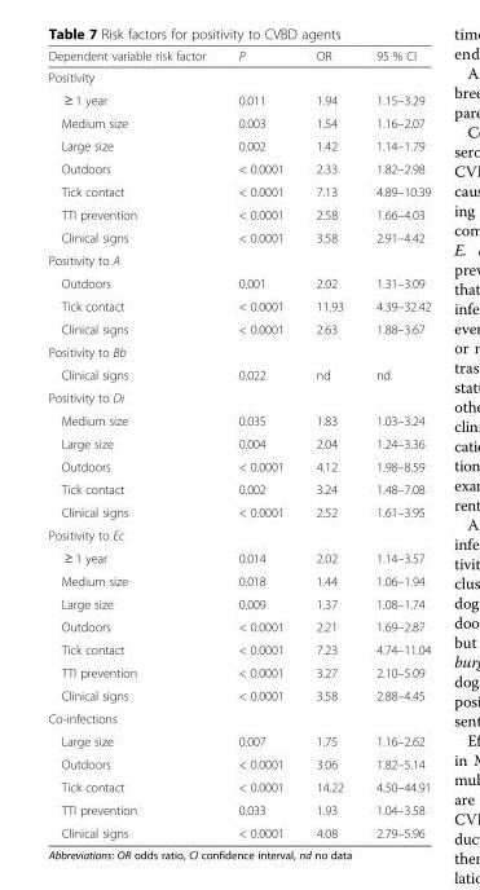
<table><thead><tr><td>Dependent variable risk factor</td><td>P</td><td>OR</td><td>95 % CI</td></tr></thead><tbody><tr><td colspan="4">Positivity</td></tr><tr><td>≥ 1 year</td><td>0.011</td><td>1.94</td><td>1.15–3.29</td></tr><tr><td>Medium size</td><td>0.003</td><td>1.54</td><td>1.16–2.07</td></tr><tr><td>Large size</td><td>0.002</td><td>1.42</td><td>1.14–1.79</td></tr><tr><td>Outdoors</td><td>&lt; 0.0001</td><td>2.33</td><td>1.82–2.98</td></tr><tr><td>Tick contact</td><td>&lt; 0.0001</td><td>7.13</td><td>4.89–10.39</td></tr><tr><td>TTI prevention</td><td>&lt; 0.0001</td><td>2.58</td><td>1.66–4.03</td></tr><tr><td>Clinical signs</td><td>&lt; 0.0001</td><td>3.58</td><td>2.91–4.42</td></tr><tr><td colspan="4">Positivity to A</td></tr><tr><td>Outdoors</td><td>0.001</td><td>2.02</td><td>1.31–3.09</td></tr><tr><td>Tick contact</td><td>&lt; 0.0001</td><td>11.93</td><td>4.39–32.42</td></tr><tr><td>Clinical signs</td><td>&lt; 0.0001</td><td>2.63</td><td>1.88–3.67</td></tr><tr><td colspan="4">Positivity to Bb</td></tr><tr><td>Clinical signs</td><td>0.022</td><td>nd</td><td>nd</td></tr><tr><td colspan="4">Positivity to Di</td></tr><tr><td>Medium size</td><td>0.035</td><td>1.83</td><td>1.03–3.24</td></tr><tr><td>Large size</td><td>0.004</td><td>2.04</td><td>1.24–3.36</td></tr><tr><td>Outdoors</td><td>&lt; 0.0001</td><td>4.12</td><td>1.98–8.59</td></tr><tr><td>Tick contact</td><td>0.002</td><td>3.24</td><td>1.48–7.08</td></tr><tr><td>Clinical signs</td><td>&lt; 0.0001</td><td>2.52</td><td>1.61–3.95</td></tr><tr><td colspan="4">Positivity to Ec</td></tr><tr><td>≥ 1 year</td><td>0.014</td><td>2.02</td><td>1.14–3.57</td></tr><tr><td>Medium size</td><td>0.018</td><td>1.44</td><td>1.06–1.94</td></tr><tr><td>Large size</td><td>0.009</td><td>1.37</td><td>1.08–1.74</td></tr><tr><td>Outdoors</td><td>&lt; 0.0001</td><td>2.21</td><td>1.69–2.87</td></tr><tr><td>Tick contact</td><td>&lt; 0.0001</td><td>7.23</td><td>4.74–11.04</td></tr><tr><td>TTI prevention</td><td>&lt; 0.0001</td><td>3.27</td><td>2.10–5.09</td></tr><tr><td>Clinical signs</td><td>&lt; 0.0001</td><td>3.58</td><td>2.88–4.45</td></tr><tr><td colspan="4">Co-infections</td></tr><tr><td>Large size</td><td>0.007</td><td>1.75</td><td>1.16–2.62</td></tr><tr><td>Outdoors</td><td>&lt; 0.0001</td><td>3.06</td><td>1.82–5.14</td></tr><tr><td>Tick contact</td><td>&lt; 0.0001</td><td>14.22</td><td>4.50–44.91</td></tr><tr><td>TTI prevention</td><td>0.033</td><td>1.93</td><td>1.04–3.58</td></tr><tr><td>Clinical signs</td><td>&lt; 0.0001</td><td>4.08</td><td>2.79–5.96</td></tr></tbody></table>